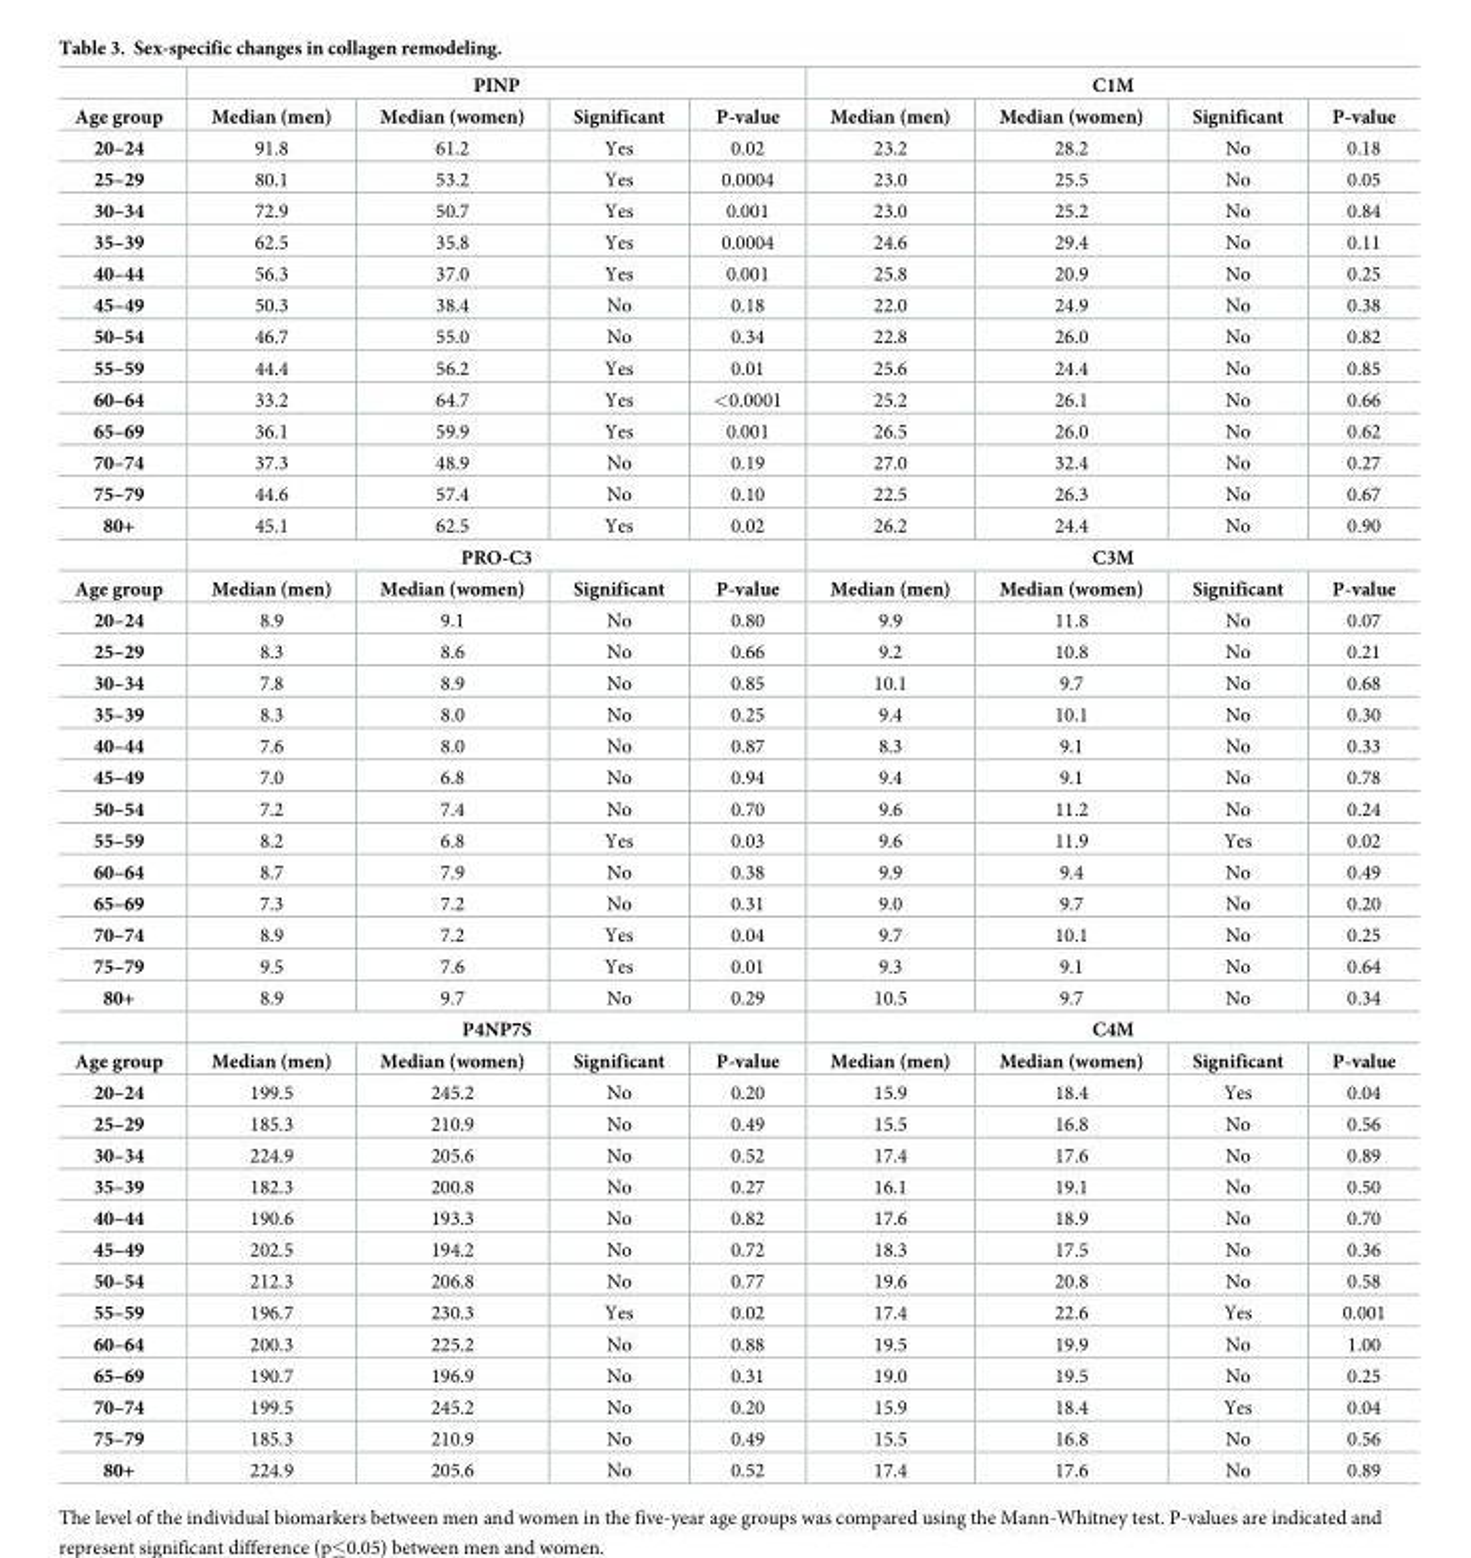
<table><thead><tr><td rowspan="2">Age group</td><td colspan="4">PINP</td><td colspan="4">C1M</td></tr><tr><td>Median (men)</td><td>Median (women)</td><td>Significant</td><td>P-value</td><td>Median (men)</td><td>Median (women)</td><td>Significant</td><td>P-value</td></tr></thead><tbody><tr><td>20–24</td><td>91.8</td><td>61.2</td><td>Yes</td><td>0.02</td><td>23.2</td><td>28.2</td><td>No</td><td>0.18</td></tr><tr><td>25–29</td><td>80.1</td><td>53.2</td><td>Yes</td><td>0.0004</td><td>23.0</td><td>25.5</td><td>No</td><td>0.05</td></tr><tr><td>30–34</td><td>72.9</td><td>50.7</td><td>Yes</td><td>0.001</td><td>23.0</td><td>25.2</td><td>No</td><td>0.84</td></tr><tr><td>35–39</td><td>62.5</td><td>35.8</td><td>Yes</td><td>0.0004</td><td>24.6</td><td>29.4</td><td>No</td><td>0.11</td></tr><tr><td>40–44</td><td>56.3</td><td>37.0</td><td>Yes</td><td>0.001</td><td>25.8</td><td>20.9</td><td>No</td><td>0.25</td></tr><tr><td>45–49</td><td>50.3</td><td>38.4</td><td>No</td><td>0.18</td><td>22.0</td><td>24.9</td><td>No</td><td>0.38</td></tr><tr><td>50–54</td><td>46.7</td><td>55.0</td><td>No</td><td>0.34</td><td>22.8</td><td>26.0</td><td>No</td><td>0.82</td></tr><tr><td>55–59</td><td>44.4</td><td>56.2</td><td>Yes</td><td>0.01</td><td>25.6</td><td>24.4</td><td>No</td><td>0.85</td></tr><tr><td>60–64</td><td>33.2</td><td>64.7</td><td>Yes</td><td>&lt;0.0001</td><td>25.2</td><td>26.1</td><td>No</td><td>0.66</td></tr><tr><td>65–69</td><td>36.1</td><td>59.9</td><td>Yes</td><td>0.001</td><td>26.5</td><td>26.0</td><td>No</td><td>0.62</td></tr><tr><td>70–74</td><td>37.3</td><td>48.9</td><td>No</td><td>0.19</td><td>27.0</td><td>32.4</td><td>No</td><td>0.27</td></tr><tr><td>75–79</td><td>44.6</td><td>57.4</td><td>No</td><td>0.10</td><td>22.5</td><td>26.3</td><td>No</td><td>0.67</td></tr><tr><td rowspan="2">80+</td><td>45.1</td><td>62.5</td><td>Yes</td><td>0.02</td><td>26.2</td><td>24.4</td><td>No</td><td>0.90</td></tr><tr><td colspan="4">PRO-C3</td><td colspan="4">C3M</td></tr><tr><td>Age group</td><td>Median (men)</td><td>Median (women)</td><td>Significant</td><td>P-value</td><td>Median (men)</td><td>Median (women)</td><td>Significant</td><td>P-value</td></tr><tr><td>20–24</td><td>8.9</td><td>9.1</td><td>No</td><td>0.80</td><td>9.9</td><td>11.8</td><td>No</td><td>0.07</td></tr><tr><td>25–29</td><td>8.3</td><td>8.6</td><td>No</td><td>0.66</td><td>9.2</td><td>10.8</td><td>No</td><td>0.21</td></tr><tr><td>30–34</td><td>7.8</td><td>8.9</td><td>No</td><td>0.85</td><td>10.1</td><td>9.7</td><td>No</td><td>0.68</td></tr><tr><td>35–39</td><td>8.3</td><td>8.0</td><td>No</td><td>0.25</td><td>9.4</td><td>10.1</td><td>No</td><td>0.30</td></tr><tr><td>40–44</td><td>7.6</td><td>8.0</td><td>No</td><td>0.87</td><td>8.3</td><td>9.1</td><td>No</td><td>0.33</td></tr><tr><td>45–49</td><td>7.0</td><td>6.8</td><td>No</td><td>0.94</td><td>9.4</td><td>9.1</td><td>No</td><td>0.78</td></tr><tr><td>50–54</td><td>7.2</td><td>7.4</td><td>No</td><td>0.70</td><td>9.6</td><td>11.2</td><td>No</td><td>0.24</td></tr><tr><td>55–59</td><td>8.2</td><td>6.8</td><td>Yes</td><td>0.03</td><td>9.6</td><td>11.9</td><td>Yes</td><td>0.02</td></tr><tr><td>60–64</td><td>8.7</td><td>7.9</td><td>No</td><td>0.38</td><td>9.9</td><td>9.4</td><td>No</td><td>0.49</td></tr><tr><td>65–69</td><td>7.3</td><td>7.2</td><td>No</td><td>0.31</td><td>9.0</td><td>9.7</td><td>No</td><td>0.20</td></tr><tr><td>70–74</td><td>8.9</td><td>7.2</td><td>Yes</td><td>0.04</td><td>9.7</td><td>10.1</td><td>No</td><td>0.25</td></tr><tr><td>75–79</td><td>9.5</td><td>7.6</td><td>Yes</td><td>0.01</td><td>9.3</td><td>9.1</td><td>No</td><td>0.64</td></tr><tr><td rowspan="2">80+</td><td>8.9</td><td>9.7</td><td>No</td><td>0.29</td><td>10.5</td><td>9.7</td><td>No</td><td>0.34</td></tr><tr><td colspan="4">P4NP7S</td><td colspan="4">C4M</td></tr><tr><td>Age group</td><td>Median (men)</td><td>Median (women)</td><td>Significant</td><td>P-value</td><td>Median (men)</td><td>Median (women)</td><td>Significant</td><td>P-value</td></tr><tr><td>20–24</td><td>199.5</td><td>245.2</td><td>No</td><td>0.20</td><td>15.9</td><td>18.4</td><td>Yes</td><td>0.04</td></tr><tr><td>25–29</td><td>185.3</td><td>210.9</td><td>No</td><td>0.49</td><td>15.5</td><td>16.8</td><td>No</td><td>0.56</td></tr><tr><td>30–34</td><td>224.9</td><td>205.6</td><td>No</td><td>0.52</td><td>17.4</td><td>17.6</td><td>No</td><td>0.89</td></tr><tr><td>35–39</td><td>182.3</td><td>200.8</td><td>No</td><td>0.27</td><td>16.1</td><td>19.1</td><td>No</td><td>0.50</td></tr><tr><td>40–44</td><td>190.6</td><td>193.3</td><td>No</td><td>0.82</td><td>17.6</td><td>18.9</td><td>No</td><td>0.70</td></tr><tr><td>45–49</td><td>202.5</td><td>194.2</td><td>No</td><td>0.72</td><td>18.3</td><td>17.5</td><td>No</td><td>0.36</td></tr><tr><td>50–54</td><td>212.3</td><td>206.8</td><td>No</td><td>0.77</td><td>19.6</td><td>20.8</td><td>No</td><td>0.58</td></tr><tr><td>55–59</td><td>196.7</td><td>230.3</td><td>Yes</td><td>0.02</td><td>17.4</td><td>22.6</td><td>Yes</td><td>0.001</td></tr><tr><td>60–64</td><td>200.3</td><td>225.2</td><td>No</td><td>0.88</td><td>19.5</td><td>19.9</td><td>No</td><td>1.00</td></tr><tr><td>65–69</td><td>190.7</td><td>196.9</td><td>No</td><td>0.31</td><td>19.0</td><td>19.5</td><td>No</td><td>0.25</td></tr><tr><td>70–74</td><td>199.5</td><td>245.2</td><td>No</td><td>0.20</td><td>15.9</td><td>18.4</td><td>Yes</td><td>0.04</td></tr><tr><td>75–79</td><td>185.3</td><td>210.9</td><td>No</td><td>0.49</td><td>15.5</td><td>16.8</td><td>No</td><td>0.56</td></tr><tr><td>80+</td><td>224.9</td><td>205.6</td><td>No</td><td>0.52</td><td>17.4</td><td>17.6</td><td>No</td><td>0.89</td></tr></tbody></table>